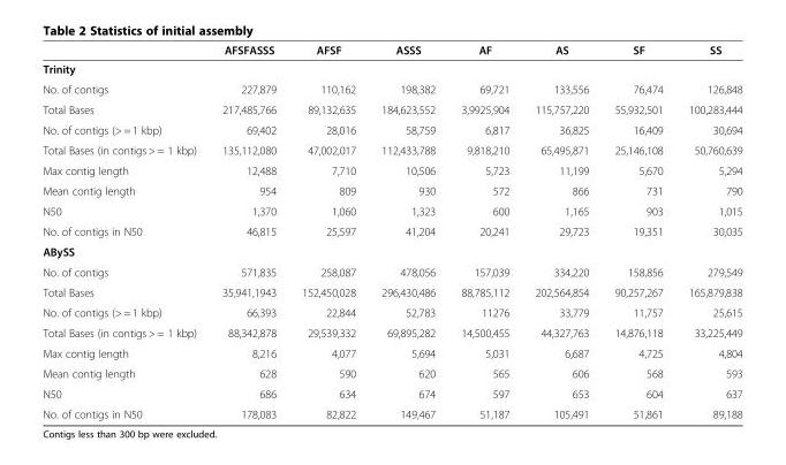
<table><thead><tr><td></td><td>AFSFASSS</td><td>AFSF</td><td>ASSS</td><td>AF</td><td>AS</td><td>SF</td><td>SS</td></tr></thead><tbody><tr><td colspan="8">Trinity</td></tr><tr><td>No. of contigs</td><td>227,879</td><td>110,162</td><td>198,382</td><td>69,721</td><td>133,556</td><td>76,474</td><td>126,848</td></tr><tr><td>Total Bases</td><td>217,485,766</td><td>89,132,635</td><td>184,623,552</td><td>3,9925,904</td><td>115,757,220</td><td>55,932,501</td><td>100,283,444</td></tr><tr><td>No. of contigs (&gt; = 1 kbp)</td><td>69,402</td><td>28,016</td><td>58,759</td><td>6,817</td><td>36,825</td><td>16,409</td><td>30,694</td></tr><tr><td>Total Bases (in contigs &gt; = 1 kbp)</td><td>135,112,080</td><td>47,002,017</td><td>112,433,788</td><td>9,818,210</td><td>65,495,871</td><td>25,146,108</td><td>50,760,639</td></tr><tr><td>Max contig length</td><td>12,488</td><td>7,710</td><td>10,506</td><td>5,723</td><td>11,199</td><td>5,670</td><td>5,294</td></tr><tr><td>Mean contig length</td><td>954</td><td>809</td><td>930</td><td>572</td><td>866</td><td>731</td><td>790</td></tr><tr><td>N50</td><td>1,370</td><td>1,060</td><td>1,323</td><td>600</td><td>1,165</td><td>903</td><td>1,015</td></tr><tr><td>No. of contigs in N50</td><td>46,815</td><td>25,597</td><td>41,204</td><td>20,241</td><td>29,723</td><td>19,351</td><td>30,035</td></tr><tr><td colspan="8">ABySS</td></tr><tr><td>No. of contigs</td><td>571,835</td><td>258,087</td><td>478,056</td><td>157,039</td><td>334,220</td><td>158,856</td><td>279,549</td></tr><tr><td>Total Bases</td><td>35,941,1943</td><td>152,450,028</td><td>296,430,486</td><td>88,785,112</td><td>202,564,854</td><td>90,257,267</td><td>165,879,838</td></tr><tr><td>No. of contigs (&gt; = 1 kbp)</td><td>66,393</td><td>22,844</td><td>52,783</td><td>11276</td><td>33,779</td><td>11,757</td><td>25,615</td></tr><tr><td>Total Bases (in contigs &gt; = 1 kbp)</td><td>88,342,878</td><td>29,539,332</td><td>69,895,282</td><td>14,500,455</td><td>44,327,763</td><td>14,876,118</td><td>33,225,449</td></tr><tr><td>Max contig length</td><td>8,216</td><td>4,077</td><td>5,694</td><td>5,031</td><td>6,687</td><td>4,725</td><td>4,804</td></tr><tr><td>Mean contig length</td><td>628</td><td>590</td><td>620</td><td>565</td><td>606</td><td>568</td><td>593</td></tr><tr><td>N50</td><td>686</td><td>634</td><td>674</td><td>597</td><td>653</td><td>604</td><td>637</td></tr><tr><td>No. of contigs in N50</td><td>178,083</td><td>82,822</td><td>149,467</td><td>51,187</td><td>105,491</td><td>51,861</td><td>89,188</td></tr></tbody></table>